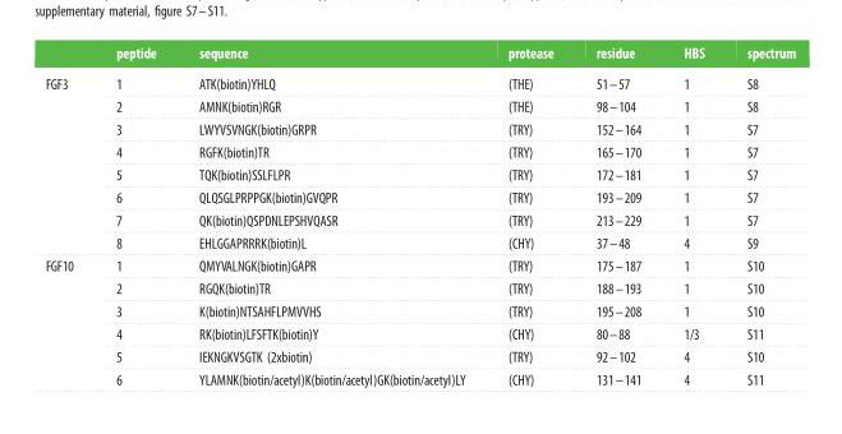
<table><thead><tr><td></td><td>peptide</td><td>sequence</td><td>protease</td><td>residue</td><td>HBS</td><td>spectrum</td></tr></thead><tbody><tr><td rowspan="8">FGF3</td><td>1</td><td>ATK(biotin)YHLQ</td><td>(THE)</td><td>51–57</td><td>1</td><td>S8</td></tr><tr><td>2</td><td>AMNK(biotin)RGR</td><td>(THE)</td><td>98–104</td><td>1</td><td>S8</td></tr><tr><td>3</td><td>LWYVSVNGK(biotin)GRPR</td><td>(TRY)</td><td>152–164</td><td>1</td><td>S7</td></tr><tr><td>4</td><td>RGFK(biotin)TR</td><td>(TRY)</td><td>165–170</td><td>1</td><td>S7</td></tr><tr><td>5</td><td>TQK(biotin)SSLFLPR</td><td>(TRY)</td><td>172–181</td><td>1</td><td>S7</td></tr><tr><td>6</td><td>QLQSGLPRPPGK(biotin)GVQPR</td><td>(TRY)</td><td>193–209</td><td>1</td><td>S7</td></tr><tr><td>7</td><td>QK(biotin)QSPDNLEPSHVQASR</td><td>(TRY)</td><td>213–229</td><td>1</td><td>S7</td></tr><tr><td>8</td><td>EHLGGAPRRRK(biotin)L</td><td>(CHY)</td><td>37–48</td><td>4</td><td>S9</td></tr><tr><td rowspan="6">FGF10</td><td>1</td><td>QMYVALNGK(biotin)GAPR</td><td>(TRY)</td><td>175–187</td><td>1</td><td>S10</td></tr><tr><td>2</td><td>RGQK(biotin)TR</td><td>(TRY)</td><td>188–193</td><td>1</td><td>S10</td></tr><tr><td>3</td><td>K(biotin)NTSAHFLPMVVHS</td><td>(TRY)</td><td>195–208</td><td>1</td><td>S10</td></tr><tr><td>4</td><td>RK(biotin)LFSFTK(biotin)Y</td><td>(CHY)</td><td>80–88</td><td>1/3</td><td>S11</td></tr><tr><td>5</td><td>IEKNGKVSGTK (2xbiotin)</td><td>(TRY)</td><td>92–102</td><td>4</td><td>S10</td></tr><tr><td>6</td><td>YLAMNK(biotin/acetyl)K(biotin/acetyl)GK(biotin/acetyl)LY</td><td>(CHY)</td><td>131–141</td><td>4</td><td>S11</td></tr></tbody></table>